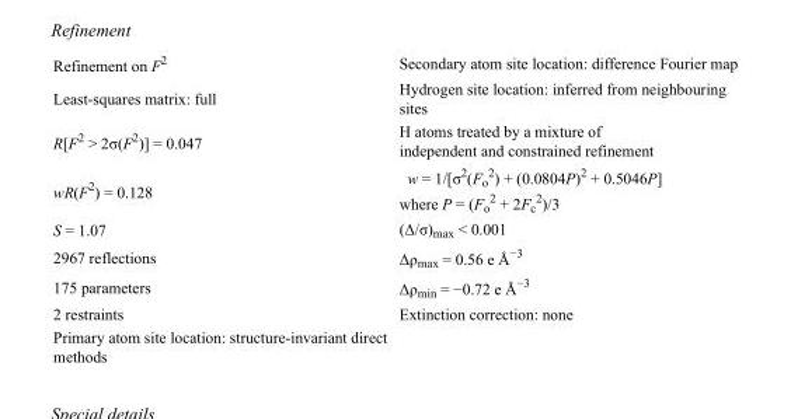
<table><tbody><tr><td>Refinement on F<sup>2</sup></td><td>Secondary atom site location: difference Fourier map</td></tr><tr><td>Least-squares matrix: full</td><td>Hydrogen site location: inferred from neighbouring sites</td></tr><tr><td>R[F<sup>2</sup> &gt; 2σ(F<sup>2</sup>)] = 0.047</td><td>H atoms treated by a mixture of independent and constrained refinement</td></tr><tr><td>wR(F<sup>2</sup>) = 0.128</td><td>w = 1/[σ<sup>2</sup>(F<sub>o</sub> <sup>2</sup>) + (0.0804P)<sup>2</sup> + 0.5046P] where P = (F<sub>o</sub> <sup>2</sup> + 2F<sub>c</sub> <sup>2</sup>)/3</td></tr><tr><td>S = 1.07</td><td>(Δ/σ)<sub>max</sub> &lt; 0.001</td></tr><tr><td>2967 reflections</td><td>Δρ<sub>max</sub> = 0.56 e Å<sup>−3</sup></td></tr><tr><td>175 parameters</td><td>Δρ<sub>min</sub> = −0.72 e Å<sup>−3</sup></td></tr><tr><td>2 restraints</td><td>Extinction correction: none</td></tr><tr><td>Primary atom site location: structure-invariant direct methods</td><td></td></tr></tbody></table>